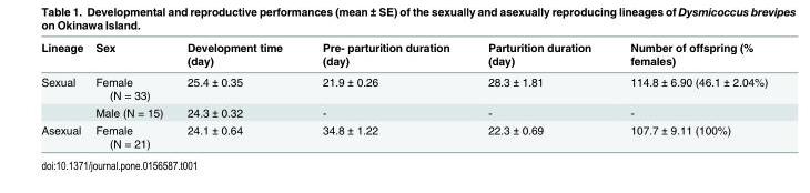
<table><thead><tr><td>Lineage</td><td>Sex</td><td>Development time (day)</td><td>Pre- parturition duration (day)</td><td>Parturition duration (day)</td><td>Number of offspring (% females)</td></tr></thead><tbody><tr><td rowspan="2">Sexual</td><td>Female (N = 33)</td><td>25.4 ± 0.35</td><td>21.9 ± 0.26</td><td>28.3 ± 1.81</td><td>114.8 ± 6.90 (46.1 ± 2.04%)</td></tr><tr><td>Male (N = 15)</td><td>24.3 ± 0.32</td><td>-</td><td>-</td><td>-</td></tr><tr><td>Asexual</td><td>Female (N = 21)</td><td>24.1 ± 0.64</td><td>34.8 ± 1.22</td><td>22.3 ± 0.69</td><td>107.7 ± 9.11 (100%)</td></tr></tbody></table>